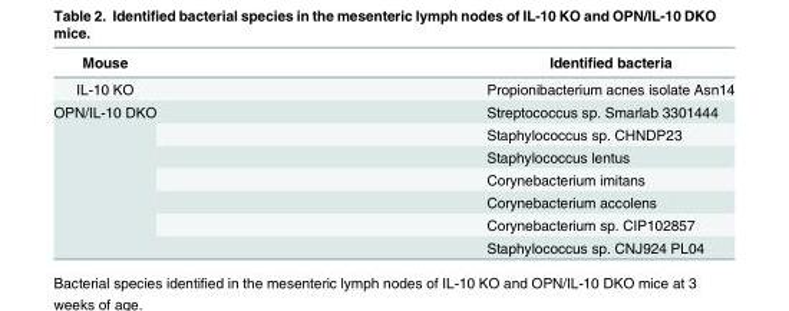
<table><thead><tr><td>Mouse</td><td>Identified bacteria</td></tr></thead><tbody><tr><td>IL-10 KO</td><td>Propionibacterium acnes isolate Asn14</td></tr><tr><td rowspan="7">OPN/IL-10 DKO</td><td>Streptococcus sp. Smarlab 3301444</td></tr><tr><td>Staphylococcus sp. CHNDP23</td></tr><tr><td>Staphylococcus lentus</td></tr><tr><td>Corynebacterium imitans</td></tr><tr><td>Corynebacterium accolens</td></tr><tr><td>Corynebacterium sp. CIP102857</td></tr><tr><td>Staphylococcus sp. CNJ924 PL04</td></tr></tbody></table>